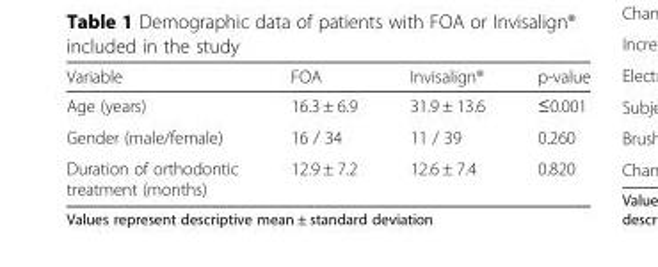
<table><thead><tr><td>Variable</td><td>FOA</td><td>Invisalign®</td><td>p-value</td></tr></thead><tbody><tr><td>Age (years)</td><td>16.3 ± 6.9</td><td>31.9 ± 13.6</td><td>≤0.001</td></tr><tr><td>Gender (male/female)</td><td>16 / 34</td><td>11 / 39</td><td>0.260</td></tr><tr><td>Duration of orthodontic treatment (months)</td><td>12.9 ± 7.2</td><td>12.6 ± 7.4</td><td>0.820</td></tr></tbody></table>